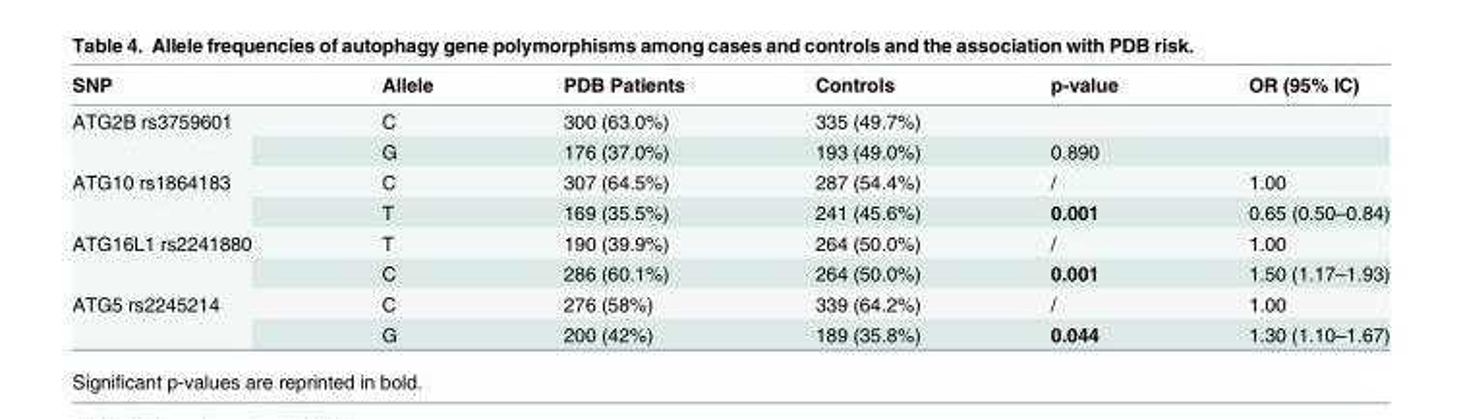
<table><thead><tr><td>SNP</td><td>Allele</td><td>PDB Patients</td><td>Controls</td><td>p-value</td><td>OR (95% IC)</td></tr></thead><tbody><tr><td rowspan="2">ATG2B rs3759601</td><td>C</td><td>300 (63.0%)</td><td>335 (49.7%)</td><td></td><td></td></tr><tr><td>G</td><td>176 (37.0%)</td><td>193 (49.0%)</td><td>0.890</td><td></td></tr><tr><td rowspan="2">ATG10 rs1864183</td><td>C</td><td>307 (64.5%)</td><td>287 (54.4%)</td><td>/</td><td>1.00</td></tr><tr><td>T</td><td>169 (35.5%)</td><td>241 (45.6%)</td><td>0.001</td><td>0.65 (0.50–0.84)</td></tr><tr><td rowspan="2">ATG16L1 rs2241880</td><td>T</td><td>190 (39.9%)</td><td>264 (50.0%)</td><td>/</td><td>1.00</td></tr><tr><td>C</td><td>286 (60.1%)</td><td>264 (50.0%)</td><td>0.001</td><td>1.50 (1.17–1.93)</td></tr><tr><td rowspan="2">ATG5 rs2245214</td><td>C</td><td>276 (58%)</td><td>339 (64.2%)</td><td>/</td><td>1.00</td></tr><tr><td>G</td><td>200 (42%)</td><td>189 (35.8%)</td><td>0.044</td><td>1.30 (1.10–1.67)</td></tr></tbody></table>